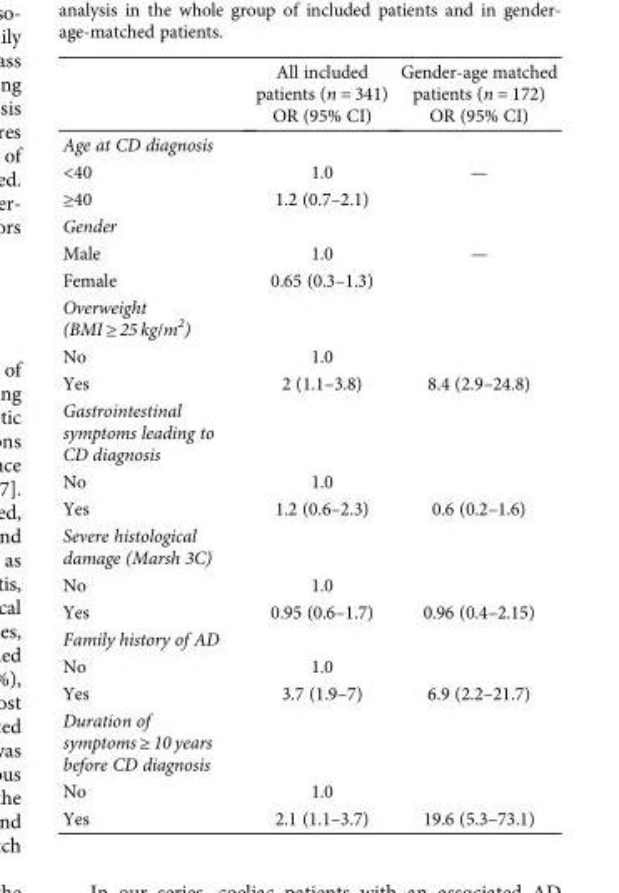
<table><thead><tr><td></td><td>All included patients (n = 341) OR (95% CI)</td><td>Gender-age matched patients (n = 172) OR (95% CI)</td></tr></thead><tbody><tr><td colspan="3">Age at CD diagnosis</td></tr><tr><td>&lt;40</td><td>1.0</td><td>—</td></tr><tr><td>≥40</td><td>1.2 (0.7–2.1)</td><td></td></tr><tr><td colspan="3">Gender</td></tr><tr><td>Male</td><td>1.0</td><td>—</td></tr><tr><td>Female</td><td>0.65 (0.3–1.3)</td><td></td></tr><tr><td colspan="3">Overweight (BMI ≥ 25 kg/m<sup>2</sup>)</td></tr><tr><td>No</td><td>1.0</td><td></td></tr><tr><td>Yes</td><td>2 (1.1–3.8)</td><td>8.4 (2.9–24.8)</td></tr><tr><td colspan="3">Gastrointestinal symptoms leading to CD diagnosis</td></tr><tr><td>No</td><td>1.0</td><td></td></tr><tr><td>Yes</td><td>1.2 (0.6–2.3)</td><td>0.6 (0.2–1.6)</td></tr><tr><td colspan="3">Severe histological damage (Marsh 3C)</td></tr><tr><td>No</td><td>1.0</td><td></td></tr><tr><td>Yes</td><td>0.95 (0.6–1.7)</td><td>0.96 (0.4–2.15)</td></tr><tr><td colspan="3">Family history of AD</td></tr><tr><td>No</td><td>1.0</td><td></td></tr><tr><td>Yes</td><td>3.7 (1.9–7)</td><td>6.9 (2.2–21.7)</td></tr><tr><td colspan="3">Duration of symptoms ≥ 10 years before CD diagnosis</td></tr><tr><td>No</td><td>1.0</td><td></td></tr><tr><td>Yes</td><td>2.1 (1.1–3.7)</td><td>19.6 (5.3–73.1)</td></tr></tbody></table>